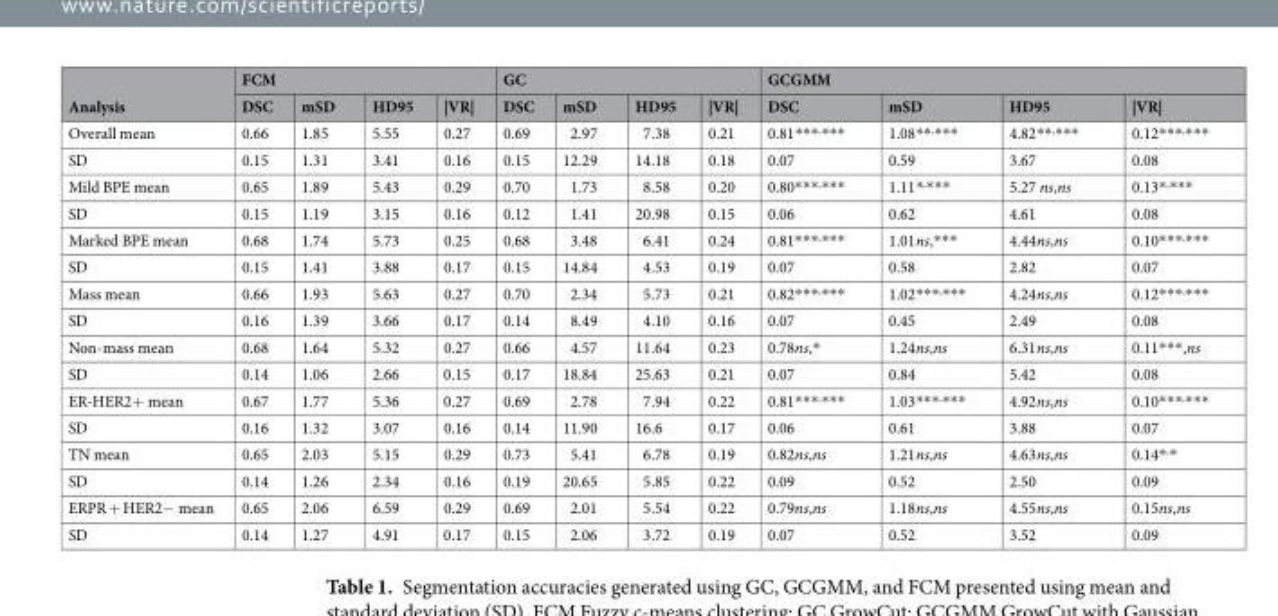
<table><thead><tr><td rowspan="2">Analysis</td><td colspan="4">FCM</td><td colspan="4">GC</td><td colspan="4">GCGMM</td></tr><tr><td>DSC</td><td>mSD</td><td>HD95</td><td>|VR|</td><td>DSC</td><td>mSD</td><td>HD95</td><td>|VR|</td><td>DSC</td><td>mSD</td><td>HD95</td><td>|VR|</td></tr></thead><tbody><tr><td>Overall mean</td><td>0.66</td><td>1.85</td><td>5.55</td><td>0.27</td><td>0.69</td><td>2.97</td><td>7.38</td><td>0.21</td><td>0.81***<sup>,</sup>***</td><td>1.08**<sup>,</sup>***</td><td>4.82**<sup>,</sup>***</td><td>0.12***<sup>,</sup>***</td></tr><tr><td>SD</td><td>0.15</td><td>1.31</td><td>3.41</td><td>0.16</td><td>0.15</td><td>12.29</td><td>14.18</td><td>0.18</td><td>0.07</td><td>0.59</td><td>3.67</td><td>0.08</td></tr><tr><td>Mild BPE mean</td><td>0.65</td><td>1.89</td><td>5.43</td><td>0.29</td><td>0.70</td><td>1.73</td><td>8.58</td><td>0.20</td><td>0.80***<sup>,</sup>***</td><td>1.11*<sup>,</sup>***</td><td>5.27 ns,ns</td><td>0.13*<sup>,</sup>***</td></tr><tr><td>SD</td><td>0.15</td><td>1.19</td><td>3.15</td><td>0.16</td><td>0.12</td><td>1.41</td><td>20.98</td><td>0.15</td><td>0.06</td><td>0.62</td><td>4.61</td><td>0.08</td></tr><tr><td>Marked BPE mean</td><td>0.68</td><td>1.74</td><td>5.73</td><td>0.25</td><td>0.68</td><td>3.48</td><td>6.41</td><td>0.24</td><td>0.81***<sup>,</sup>***</td><td>1.01ns,***</td><td>4.44ns,ns</td><td>0.10***<sup>,</sup>***</td></tr><tr><td>SD</td><td>0.15</td><td>1.41</td><td>3.88</td><td>0.17</td><td>0.15</td><td>14.84</td><td>4.53</td><td>0.19</td><td>0.07</td><td>0.58</td><td>2.82</td><td>0.07</td></tr><tr><td>Mass mean</td><td>0.66</td><td>1.93</td><td>5.63</td><td>0.27</td><td>0.70</td><td>2.34</td><td>5.73</td><td>0.21</td><td>0.82***<sup>,</sup>***</td><td>1.02***<sup>,</sup>***</td><td>4.24ns,ns</td><td>0.12***<sup>,</sup>***</td></tr><tr><td>SD</td><td>0.16</td><td>1.39</td><td>3.66</td><td>0.17</td><td>0.14</td><td>8.49</td><td>4.10</td><td>0.16</td><td>0.07</td><td>0.45</td><td>2.49</td><td>0.08</td></tr><tr><td>Non-mass mean</td><td>0.68</td><td>1.64</td><td>5.32</td><td>0.27</td><td>0.66</td><td>4.57</td><td>11.64</td><td>0.23</td><td>0.78ns,*</td><td>1.24ns,ns</td><td>6.31ns,ns</td><td>0.11***,ns</td></tr><tr><td>SD</td><td>0.14</td><td>1.06</td><td>2.66</td><td>0.15</td><td>0.17</td><td>18.84</td><td>25.63</td><td>0.21</td><td>0.07</td><td>0.84</td><td>5.42</td><td>0.08</td></tr><tr><td>ER-HER2+ mean</td><td>0.67</td><td>1.77</td><td>5.36</td><td>0.27</td><td>0.69</td><td>2.78</td><td>7.94</td><td>0.22</td><td>0.81***<sup>,</sup>***</td><td>1.03***<sup>,</sup>***</td><td>4.92ns,ns</td><td>0.10***<sup>,</sup>***</td></tr><tr><td>SD</td><td>0.16</td><td>1.32</td><td>3.07</td><td>0.16</td><td>0.14</td><td>11.90</td><td>16.6</td><td>0.17</td><td>0.06</td><td>0.61</td><td>3.88</td><td>0.07</td></tr><tr><td>TN mean</td><td>0.65</td><td>2.03</td><td>5.15</td><td>0.29</td><td>0.73</td><td>5.41</td><td>6.78</td><td>0.19</td><td>0.82ns,ns</td><td>1.21ns,ns</td><td>4.63ns,ns</td><td>0.14*<sup>,</sup>*</td></tr><tr><td>SD</td><td>0.14</td><td>1.26</td><td>2.34</td><td>0.16</td><td>0.19</td><td>20.65</td><td>5.85</td><td>0.22</td><td>0.09</td><td>0.52</td><td>2.50</td><td>0.09</td></tr><tr><td>ERPR + HER2− mean</td><td>0.65</td><td>2.06</td><td>6.59</td><td>0.29</td><td>0.69</td><td>2.01</td><td>5.54</td><td>0.22</td><td>0.79ns,ns</td><td>1.18ns,ns</td><td>4.55ns,ns</td><td>0.15ns,ns</td></tr><tr><td>SD</td><td>0.14</td><td>1.27</td><td>4.91</td><td>0.17</td><td>0.15</td><td>2.06</td><td>3.72</td><td>0.19</td><td>0.07</td><td>0.52</td><td>3.52</td><td>0.09</td></tr></tbody></table>